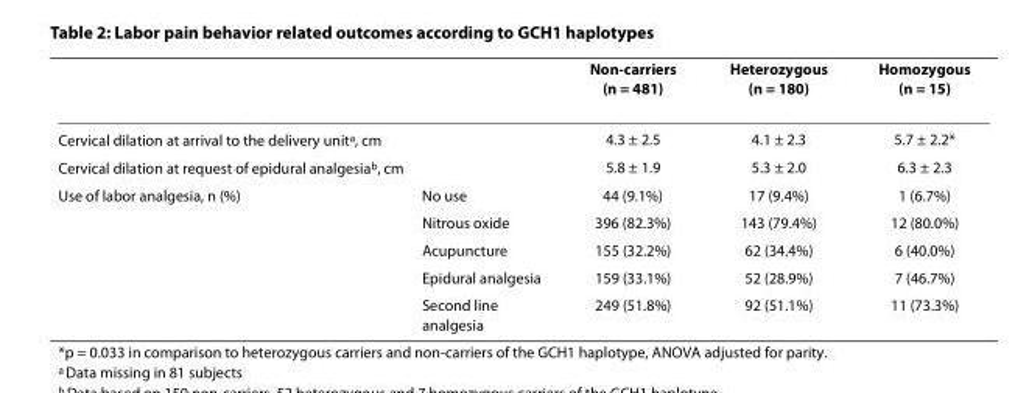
<table><thead><tr><td></td><td></td><td>Non-carriers (n = 481)</td><td>Heterozygous (n = 180)</td><td>Homozygous (n = 15)</td></tr></thead><tbody><tr><td>Cervical dilation at arrival to the delivery unit<sup>a</sup>, cm</td><td></td><td>4.3 ± 2.5</td><td>4.1 ± 2.3</td><td>5.7 ± 2.2*</td></tr><tr><td>Cervical dilation at request of epidural analgesia<sup>b</sup>, cm</td><td></td><td>5.8 ± 1.9</td><td>5.3 ± 2.0</td><td>6.3 ± 2.3</td></tr><tr><td rowspan="5">Use of labor analgesia, n (%)</td><td>No use</td><td>44 (9.1%)</td><td>17 (9.4%)</td><td>1 (6.7%)</td></tr><tr><td>Nitrous oxide</td><td>396 (82.3%)</td><td>143 (79.4%)</td><td>12 (80.0%)</td></tr><tr><td>Acupuncture</td><td>155 (32.2%)</td><td>62 (34.4%)</td><td>6 (40.0%)</td></tr><tr><td>Epidural analgesia</td><td>159 (33.1%)</td><td>52 (28.9%)</td><td>7 (46.7%)</td></tr><tr><td>Second line analgesia</td><td>249 (51.8%)</td><td>92 (51.1%)</td><td>11 (73.3%)</td></tr></tbody></table>